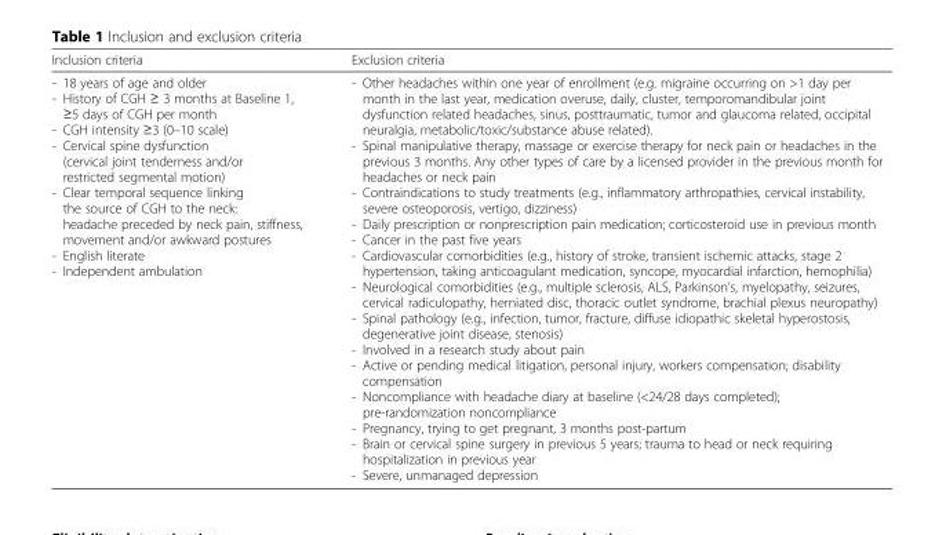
<table><thead><tr><td>Inclusion criteria</td><td>Exclusion criteria</td></tr></thead><tbody><tr><td>- 18 years of age and older - History of CGH ≥ 3 months at Baseline 1, ≥5 days of CGH per month - CGH intensity ≥3 (0–10 scale) - Cervical spine dysfunction (cervical joint tenderness and/or restricted segmental motion) - Clear temporal sequence linking the source of CGH to the neck: headache preceded by neck pain, stiffness, movement and/or awkward postures - English literate - Independent ambulation</td><td>- Other headaches within one year of enrollment (e.g. migraine occurring on &gt;1 day per month in the last year, medication overuse, daily, cluster, temporomandibular joint dysfunction related headaches, sinus, posttraumatic, tumor and glaucoma related, occipital neuralgia, metabolic/toxic/substance abuse related). - Spinal manipulative therapy, massage or exercise therapy for neck pain or headaches in the previous 3 months. Any other types of care by a licensed provider in the previous month for headaches or neck pain - Contraindications to study treatments (e.g., inflammatory arthropathies, cervical instability, severe osteoporosis, vertigo, dizziness) - Daily prescription or nonprescription pain medication; corticosteroid use in previous month - Cancer in the past five years - Cardiovascular comorbidities (e.g., history of stroke, transient ischemic attacks, stage 2 hypertension, taking anticoagulant medication, syncope, myocardial infarction, hemophilia) - Neurological comorbidities (e.g., multiple sclerosis, ALS, Parkinson’s, myelopathy, seizures, cervical radiculopathy, herniated disc, thoracic outlet syndrome, brachial plexus neuropathy) - Spinal pathology (e.g., infection, tumor, fracture, diffuse idiopathic skeletal hyperostosis, degenerative joint disease, stenosis) - Involved in a research study about pain - Active or pending medical litigation, personal injury, workers compensation; disability compensation - Noncompliance with headache diary at baseline (&lt;24/28 days completed); pre-randomization noncompliance - Pregnancy, trying to get pregnant, 3 months post-partum - Brain or cervical spine surgery in previous 5 years; trauma to head or neck requiring hospitalization in previous year - Severe, unmanaged depression</td></tr></tbody></table>